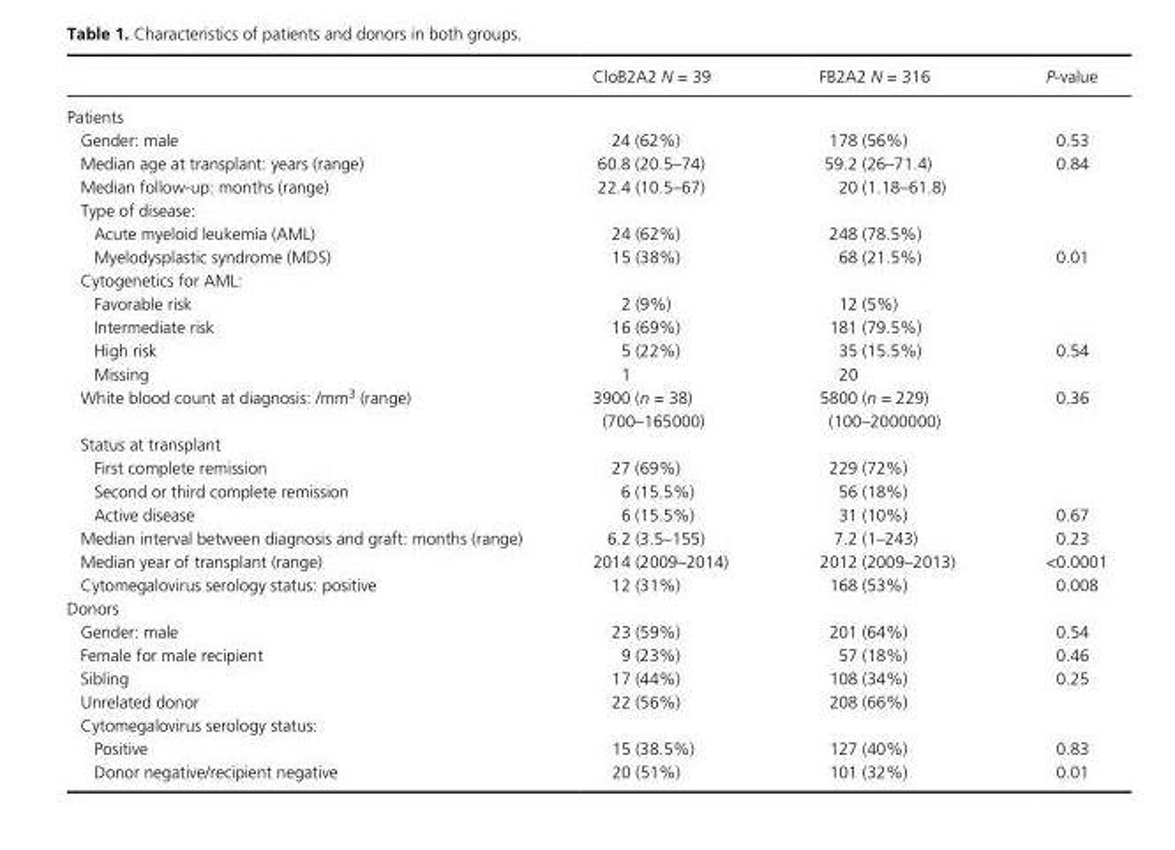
<table><thead><tr><td></td><td>CloB2A2 N = 39</td><td>FB2A2 N = 316</td><td>P- value</td></tr></thead><tbody><tr><td colspan="4">Patients</td></tr><tr><td>Gender: male</td><td>24 (62%)</td><td>178 (56%)</td><td>0.53</td></tr><tr><td>Median age at transplant: years (range)</td><td>60.8 (20.5–74)</td><td>59.2 (26–71.4)</td><td>0.84</td></tr><tr><td>Median follow- up: months (range)</td><td>22.4 (10.5–67)</td><td>20 (1.18–61.8)</td><td></td></tr><tr><td colspan="4">Type of disease:</td></tr><tr><td>Acute myeloid leukemia (AML)</td><td>24 (62%)</td><td>248 (78.5%)</td><td></td></tr><tr><td>Myelodysplastic syndrome (MDS)</td><td>15 (38%)</td><td>68 (21.5%)</td><td>0.01</td></tr><tr><td colspan="4">Cytogenetics for AML:</td></tr><tr><td>Favorable risk</td><td>2 (9%)</td><td>12 (5%)</td><td></td></tr><tr><td>Intermediate risk</td><td>16 (69%)</td><td>181 (79.5%)</td><td></td></tr><tr><td>High risk</td><td>5 (22%)</td><td>35 (15.5%)</td><td>0.54</td></tr><tr><td>Missing</td><td>1</td><td>20</td><td></td></tr><tr><td>White blood count at diagnosis: /mm<sup>3</sup> (range)</td><td>3 900 (n = 38) (700–165000)</td><td>5 800 (n = 229) (100–2000000)</td><td>0.36</td></tr><tr><td colspan="4">Status at transplant</td></tr><tr><td>First complete remission</td><td>27 (69%)</td><td>229 (72%)</td><td></td></tr><tr><td>Second or third complete remission</td><td>6 (15.5%)</td><td>56 (18%)</td><td></td></tr><tr><td>Active disease</td><td>6 (15.5%)</td><td>31 (10%)</td><td>0.67</td></tr><tr><td>Median interval between diagnosis and graft: months (range)</td><td>6.2 (3.5–155)</td><td>7.2 (1–243)</td><td>0.23</td></tr><tr><td>Median year of transplant (range)</td><td>2014 (2009–2014)</td><td>2012 (2009–2013)</td><td>&lt;0.0001</td></tr><tr><td>Cytomegalovirus serology status: positive</td><td>12 (31%)</td><td>168 (53%)</td><td>0.008</td></tr><tr><td colspan="4">Donors</td></tr><tr><td>Gender: male</td><td>23 (59%)</td><td>201 (64%)</td><td>0.54</td></tr><tr><td>Female for male recipient</td><td>9 (23%)</td><td>57 (18%)</td><td>0.46</td></tr><tr><td>Sibling</td><td>17 (44%)</td><td>108 (34%)</td><td>0.25</td></tr><tr><td>Unrelated donor</td><td>22 (56%)</td><td>208 (66%)</td><td></td></tr><tr><td colspan="4">Cytomegalovirus serology status:</td></tr><tr><td>Positive</td><td>15 (38.5%)</td><td>127 (40%)</td><td>0.83</td></tr><tr><td>Donor negative/recipient negative</td><td>20 (51%)</td><td>101 (32%)</td><td>0.01</td></tr></tbody></table>